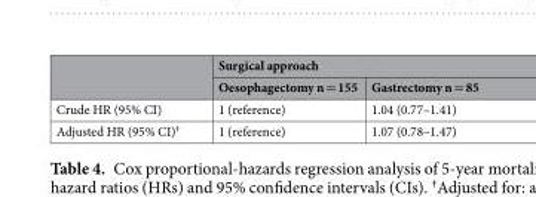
<table><thead><tr><td rowspan="2"></td><td colspan="2">Surgical approach</td></tr><tr><td>Oesophagectomy n = 155</td><td>Gastrectomy n = 85</td></tr></thead><tbody><tr><td>Crude HR (95% CI)</td><td>1 (reference)</td><td>1.04 (0.77–1.41)</td></tr><tr><td>Adjusted HR (95% CI)<sup>†</sup></td><td>1 (reference)</td><td>1.07 (0.78–1.47)</td></tr></tbody></table>